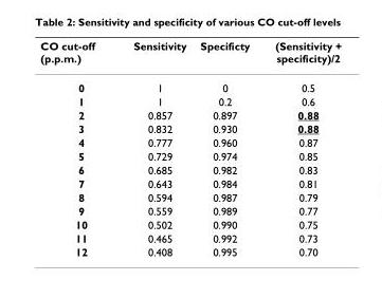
<table><thead><tr><td>CO cut-off (p.p.m.)</td><td>Sensitivity</td><td>Specificty</td><td>(Sensitivity + specificity)/2</td></tr></thead><tbody><tr><td>0</td><td>1</td><td>0</td><td>0.5</td></tr><tr><td>1</td><td>1</td><td>0.2</td><td>0.6</td></tr><tr><td>2</td><td>0.857</td><td>0.897</td><td>0.88</td></tr><tr><td>3</td><td>0.832</td><td>0.930</td><td>0.88</td></tr><tr><td>4</td><td>0.777</td><td>0.960</td><td>0.87</td></tr><tr><td>5</td><td>0.729</td><td>0.974</td><td>0.85</td></tr><tr><td>6</td><td>0.685</td><td>0.982</td><td>0.83</td></tr><tr><td>7</td><td>0.643</td><td>0.984</td><td>0.81</td></tr><tr><td>8</td><td>0.594</td><td>0.987</td><td>0.79</td></tr><tr><td>9</td><td>0.559</td><td>0.989</td><td>0.77</td></tr><tr><td>10</td><td>0.502</td><td>0.990</td><td>0.75</td></tr><tr><td>11</td><td>0.465</td><td>0.992</td><td>0.73</td></tr><tr><td>12</td><td>0.408</td><td>0.995</td><td>0.70</td></tr></tbody></table>